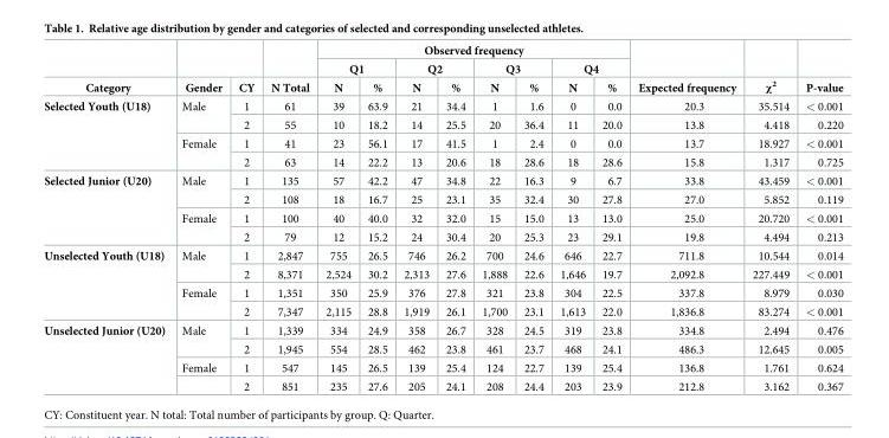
<table><thead><tr><td rowspan="3">Category</td><td rowspan="3">Gender</td><td rowspan="3">CY</td><td rowspan="3">N Total</td><td colspan="8">Observed frequency</td><td rowspan="3">Expected frequency</td><td rowspan="3">χ<sup>2</sup></td><td rowspan="3">P-value</td></tr><tr><td colspan="2">Q1</td><td colspan="2">Q2</td><td colspan="2">Q3</td><td colspan="2">Q4</td></tr><tr><td>N</td><td>%</td><td>N</td><td>%</td><td>N</td><td>%</td><td>N</td><td>%</td></tr></thead><tbody><tr><td rowspan="4">Selected Youth (U18)</td><td rowspan="2">Male</td><td>1</td><td>61</td><td>39</td><td>63.9</td><td>21</td><td>34.4</td><td>1</td><td>1.6</td><td>0</td><td>0.0</td><td>20.3</td><td>35.514</td><td>&lt; 0.001</td></tr><tr><td>2</td><td>55</td><td>10</td><td>18.2</td><td>14</td><td>25.5</td><td>20</td><td>36.4</td><td>11</td><td>20.0</td><td>13.8</td><td>4.418</td><td>0.220</td></tr><tr><td rowspan="2">Female</td><td>1</td><td>41</td><td>23</td><td>56.1</td><td>17</td><td>41.5</td><td>1</td><td>2.4</td><td>0</td><td>0.0</td><td>13.7</td><td>18.927</td><td>&lt; 0.001</td></tr><tr><td>2</td><td>63</td><td>14</td><td>22.2</td><td>13</td><td>20.6</td><td>18</td><td>28.6</td><td>18</td><td>28.6</td><td>15.8</td><td>1.317</td><td>0.725</td></tr><tr><td rowspan="4">Selected Junior (U20)</td><td rowspan="2">Male</td><td>1</td><td>135</td><td>57</td><td>42.2</td><td>47</td><td>34.8</td><td>22</td><td>16.3</td><td>9</td><td>6.7</td><td>33.8</td><td>43.459</td><td>&lt; 0.001</td></tr><tr><td>2</td><td>108</td><td>18</td><td>16.7</td><td>25</td><td>23.1</td><td>35</td><td>32.4</td><td>30</td><td>27.8</td><td>27.0</td><td>5.852</td><td>0.119</td></tr><tr><td rowspan="2">Female</td><td>1</td><td>100</td><td>40</td><td>40.0</td><td>32</td><td>32.0</td><td>15</td><td>15.0</td><td>13</td><td>13.0</td><td>25.0</td><td>20.720</td><td>&lt; 0.001</td></tr><tr><td>2</td><td>79</td><td>12</td><td>15.2</td><td>24</td><td>30.4</td><td>20</td><td>25.3</td><td>23</td><td>29.1</td><td>19.8</td><td>4.494</td><td>0.213</td></tr><tr><td rowspan="4">Unselected Youth (U18)</td><td rowspan="2">Male</td><td>1</td><td>2,847</td><td>755</td><td>26.5</td><td>746</td><td>26.2</td><td>700</td><td>24.6</td><td>646</td><td>22.7</td><td>711.8</td><td>10.544</td><td>0.014</td></tr><tr><td>2</td><td>8,371</td><td>2,524</td><td>30.2</td><td>2,313</td><td>27.6</td><td>1,888</td><td>22.6</td><td>1,646</td><td>19.7</td><td>2,092.8</td><td>227.449</td><td>&lt; 0.001</td></tr><tr><td rowspan="2">Female</td><td>1</td><td>1,351</td><td>350</td><td>25.9</td><td>376</td><td>27.8</td><td>321</td><td>23.8</td><td>304</td><td>22.5</td><td>337.8</td><td>8.979</td><td>0.030</td></tr><tr><td>2</td><td>7,347</td><td>2,115</td><td>28.8</td><td>1,919</td><td>26.1</td><td>1,700</td><td>23.1</td><td>1,613</td><td>22.0</td><td>1,836.8</td><td>83.274</td><td>&lt; 0.001</td></tr><tr><td rowspan="4">Unselected Junior (U20)</td><td rowspan="2">Male</td><td>1</td><td>1,339</td><td>334</td><td>24.9</td><td>358</td><td>26.7</td><td>328</td><td>24.5</td><td>319</td><td>23.8</td><td>334.8</td><td>2.494</td><td>0.476</td></tr><tr><td>2</td><td>1,945</td><td>554</td><td>28.5</td><td>462</td><td>23.8</td><td>461</td><td>23.7</td><td>468</td><td>24.1</td><td>486.3</td><td>12.645</td><td>0.005</td></tr><tr><td>Female</td><td>1</td><td>547</td><td>145</td><td>26.5</td><td>139</td><td>25.4</td><td>124</td><td>22.7</td><td>139</td><td>25.4</td><td>136.8</td><td>1.761</td><td>0.624</td></tr><tr><td></td><td>2</td><td>851</td><td>235</td><td>27.6</td><td>205</td><td>24.1</td><td>208</td><td>24.4</td><td>203</td><td>23.9</td><td>212.8</td><td>3.162</td><td>0.367</td></tr></tbody></table>